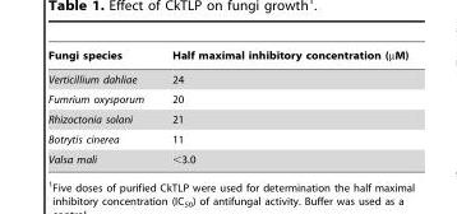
<table><thead><tr><td>Fungi species</td><td>Half maximal inhibitory concentration (µM)</td></tr></thead><tbody><tr><td>Verticillium dahliae</td><td>24</td></tr><tr><td>Fumrium oxysporum</td><td>20</td></tr><tr><td>Rhizoctonia solani</td><td>21</td></tr><tr><td>Botrytis cinerea</td><td>11</td></tr><tr><td>Valsa mali</td><td>&lt;3.0</td></tr></tbody></table>